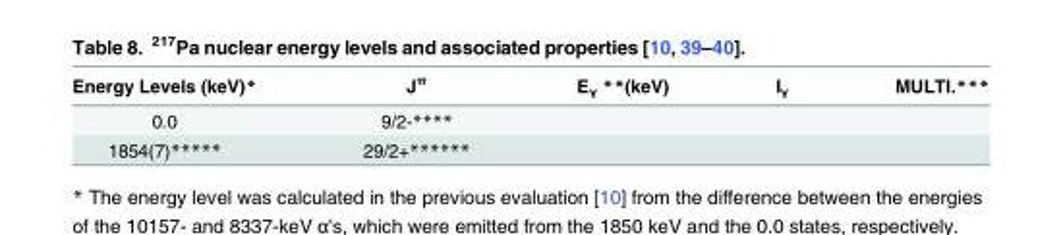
<table><thead><tr><td>Energy Levels (keV)*</td><td>J<sup>π</sup></td><td>E<sub>γ</sub> **(keV)</td><td>I<sub>γ</sub></td><td>MULTI.***</td></tr></thead><tbody><tr><td>0.0</td><td>9/2-****</td><td></td><td></td><td></td></tr><tr><td>1854(7)*****</td><td>29/2+******</td><td></td><td></td><td></td></tr></tbody></table>